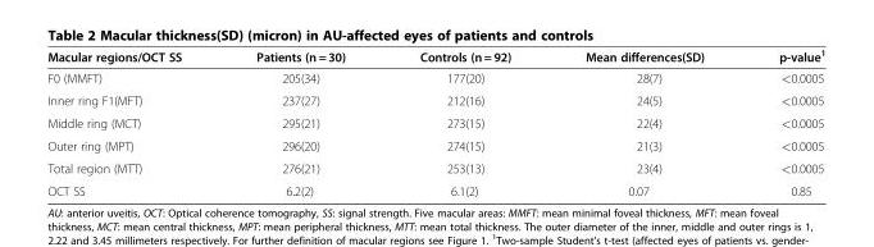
<table><thead><tr><td>Macular regions/OCT SS</td><td>Patients (n = 30)</td><td>Controls (n = 92)</td><td>Mean differences(SD)</td><td>p-value<sup>1</sup></td></tr></thead><tbody><tr><td>F0 (MMFT)</td><td>205(34)</td><td>177(20)</td><td>28(7)</td><td>&lt;0.0005</td></tr><tr><td>Inner ring F1(MFT)</td><td>237(27)</td><td>212(16)</td><td>24(5)</td><td>&lt;0.0005</td></tr><tr><td>Middle ring (MCT)</td><td>295(21)</td><td>273(15)</td><td>22(4)</td><td>&lt;0.0005</td></tr><tr><td>Outer ring (MPT)</td><td>296(20)</td><td>274(15)</td><td>21(3)</td><td>&lt;0.0005</td></tr><tr><td>Total region (MTT)</td><td>276(21)</td><td>253(13)</td><td>23(4)</td><td>&lt;0.0005</td></tr><tr><td>OCT SS</td><td>6.2(2)</td><td>6.1(2)</td><td>0.07</td><td>0.85</td></tr></tbody></table>